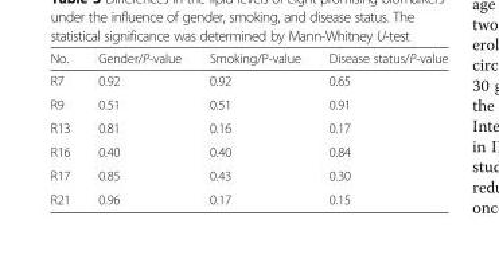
<table><thead><tr><td>No.</td><td>Gender/P-value</td><td>Smoking/P-value</td><td>Disease status/P-value</td></tr></thead><tbody><tr><td>R7</td><td>0.92</td><td>0.92</td><td>0.65</td></tr><tr><td>R9</td><td>0.51</td><td>0.51</td><td>0.91</td></tr><tr><td>R13</td><td>0.81</td><td>0.16</td><td>0.17</td></tr><tr><td>R16</td><td>0.40</td><td>0.40</td><td>0.84</td></tr><tr><td>R17</td><td>0.85</td><td>0.43</td><td>0.30</td></tr><tr><td>R21</td><td>0.96</td><td>0.17</td><td>0.15</td></tr></tbody></table>